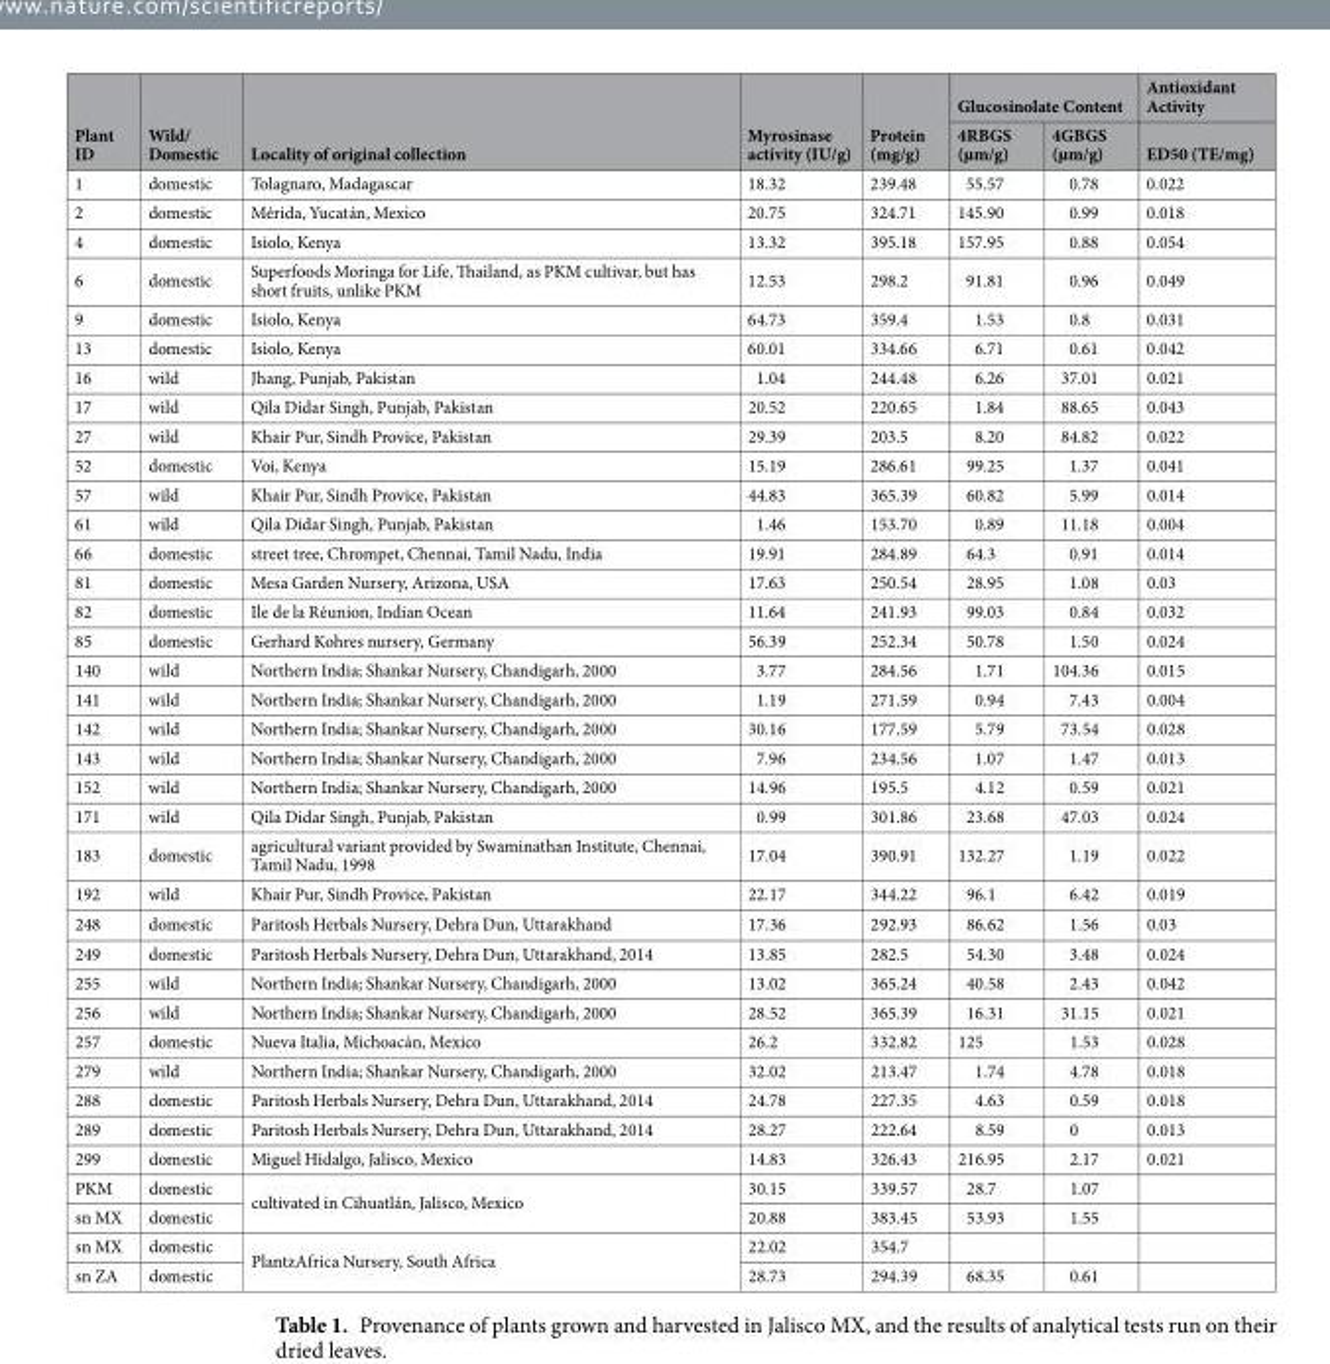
<table><thead><tr><td rowspan="2">Plant ID</td><td rowspan="2">Wild/ Domestic</td><td rowspan="2">Locality of original collection</td><td rowspan="2">Myrosinase activity (IU/g)</td><td rowspan="2">Protein (mg/g)</td><td colspan="2">Glucosinolate Content</td><td rowspan="2">Antioxidant Activity ED50 (TE/mg)</td></tr><tr><td>4RBGS (µm/g)</td><td>4GBGS (µm/g)</td></tr></thead><tbody><tr><td>1</td><td>domestic</td><td>Tolagnaro, Madagascar</td><td>18.32</td><td>239.48</td><td>55.57</td><td>0.78</td><td>0.022</td></tr><tr><td>2</td><td>domestic</td><td>Mérida, Yucatán, Mexico</td><td>20.75</td><td>324.71</td><td>145.90</td><td>0.99</td><td>0.018</td></tr><tr><td>4</td><td>domestic</td><td>Isiolo, Kenya</td><td>13.32</td><td>395.18</td><td>157.95</td><td>0.88</td><td>0.054</td></tr><tr><td>6</td><td>domestic</td><td>Superfoods Moringa for Life, Thailand, as PKM cultivar, but has short fruits, unlike PKM</td><td>12.53</td><td>298.2</td><td>91.81</td><td>0.96</td><td>0.049</td></tr><tr><td>9</td><td>domestic</td><td>Isiolo, Kenya</td><td>64.73</td><td>359.4</td><td>1.53</td><td>0.8</td><td>0.031</td></tr><tr><td>13</td><td>domestic</td><td>Isiolo, Kenya</td><td>60.01</td><td>334.66</td><td>6.71</td><td>0.61</td><td>0.042</td></tr><tr><td>16</td><td>wild</td><td>Jhang, Punjab, Pakistan</td><td>1.04</td><td>244.48</td><td>6.26</td><td>37.01</td><td>0.021</td></tr><tr><td>17</td><td>wild</td><td>Qila Didar Singh, Punjab, Pakistan</td><td>20.52</td><td>220.65</td><td>1.84</td><td>88.65</td><td>0.043</td></tr><tr><td>27</td><td>wild</td><td>Khair Pur, Sindh Provice, Pakistan</td><td>29.39</td><td>203.5</td><td>8.20</td><td>84.82</td><td>0.022</td></tr><tr><td>52</td><td>domestic</td><td>Voi, Kenya</td><td>15.19</td><td>286.61</td><td>99.25</td><td>1.37</td><td>0.041</td></tr><tr><td>57</td><td>wild</td><td>Khair Pur, Sindh Provice, Pakistan</td><td>44.83</td><td>365.39</td><td>60.82</td><td>5.99</td><td>0.014</td></tr><tr><td>61</td><td>wild</td><td>Qila Didar Singh, Punjab, Pakistan</td><td>1.46</td><td>153.70</td><td>0.89</td><td>11.18</td><td>0.004</td></tr><tr><td>66</td><td>domestic</td><td>street tree, Chrompet, Chennai, Tamil Nadu, India</td><td>19.91</td><td>284.89</td><td>64.3</td><td>0.91</td><td>0.014</td></tr><tr><td>81</td><td>domestic</td><td>Mesa Garden Nursery, Arizona, USA</td><td>17.63</td><td>250.54</td><td>28.95</td><td>1.08</td><td>0.03</td></tr><tr><td>82</td><td>domestic</td><td>Ile de la Réunion, Indian Ocean</td><td>11.64</td><td>241.93</td><td>99.03</td><td>0.84</td><td>0.032</td></tr><tr><td>85</td><td>domestic</td><td>Gerhard Kohres nursery, Germany</td><td>56.39</td><td>252.34</td><td>50.78</td><td>1.50</td><td>0.024</td></tr><tr><td>140</td><td>wild</td><td>Northern India; Shankar Nursery, Chandigarh, 2000</td><td>3.77</td><td>284.56</td><td>1.71</td><td>104.36</td><td>0.015</td></tr><tr><td>141</td><td>wild</td><td>Northern India; Shankar Nursery, Chandigarh, 2000</td><td>1.19</td><td>271.59</td><td>0.94</td><td>7.43</td><td>0.004</td></tr><tr><td>142</td><td>wild</td><td>Northern India; Shankar Nursery, Chandigarh, 2000</td><td>30.16</td><td>177.59</td><td>5.79</td><td>73.54</td><td>0.028</td></tr><tr><td>143</td><td>wild</td><td>Northern India; Shankar Nursery, Chandigarh, 2000</td><td>7.96</td><td>234.56</td><td>1.07</td><td>1.47</td><td>0.013</td></tr><tr><td>152</td><td>wild</td><td>Northern India; Shankar Nursery, Chandigarh, 2000</td><td>14.96</td><td>195.5</td><td>4.12</td><td>0.59</td><td>0.021</td></tr><tr><td>171</td><td>wild</td><td>Qila Didar Singh, Punjab, Pakistan</td><td>0.99</td><td>301.86</td><td>23.68</td><td>47.03</td><td>0.024</td></tr><tr><td>183</td><td>domestic</td><td>agricultural variant provided by Swaminathan Institute, Chennai, Tamil Nadu, 1998</td><td>17.04</td><td>390.91</td><td>132.27</td><td>1.19</td><td>0.022</td></tr><tr><td>192</td><td>wild</td><td>Khair Pur, Sindh Provice, Pakistan</td><td>22.17</td><td>344.22</td><td>96.1</td><td>6.42</td><td>0.019</td></tr><tr><td>248</td><td>domestic</td><td>Paritosh Herbals Nursery, Dehra Dun, Uttarakhand</td><td>17.36</td><td>292.93</td><td>86.62</td><td>1.56</td><td>0.03</td></tr><tr><td>249</td><td>domestic</td><td>Paritosh Herbals Nursery, Dehra Dun, Uttarakhand, 2014</td><td>13.85</td><td>282.5</td><td>54.30</td><td>3.48</td><td>0.024</td></tr><tr><td>255</td><td>wild</td><td>Northern India; Shankar Nursery, Chandigarh, 2000</td><td>13.02</td><td>365.24</td><td>40.58</td><td>2.43</td><td>0.042</td></tr><tr><td>256</td><td>wild</td><td>Northern India; Shankar Nursery, Chandigarh, 2000</td><td>28.52</td><td>365.39</td><td>16.31</td><td>31.15</td><td>0.021</td></tr><tr><td>257</td><td>domestic</td><td>Nueva Italia, Michoacán, Mexico</td><td>26.2</td><td>332.82</td><td>125</td><td>1.53</td><td>0.028</td></tr><tr><td>279</td><td>wild</td><td>Northern India; Shankar Nursery, Chandigarh, 2000</td><td>32.02</td><td>213.47</td><td>1.74</td><td>4.78</td><td>0.018</td></tr><tr><td>288</td><td>domestic</td><td>Paritosh Herbals Nursery, Dehra Dun, Uttarakhand, 2014</td><td>24.78</td><td>227.35</td><td>4.63</td><td>0.59</td><td>0.018</td></tr><tr><td>289</td><td>domestic</td><td>Paritosh Herbals Nursery, Dehra Dun, Uttarakhand, 2014</td><td>28.27</td><td>222.64</td><td>8.59</td><td>0</td><td>0.013</td></tr><tr><td>299</td><td>domestic</td><td>Miguel Hidalgo, Jalisco, Mexico</td><td>14.83</td><td>326.43</td><td>216.95</td><td>2.17</td><td>0.021</td></tr><tr><td>PKM</td><td>domestic</td><td rowspan="2">cultivated in Cihuatlán, Jalisco, Mexico</td><td>30.15</td><td>339.57</td><td>28.7</td><td>1.07</td><td></td></tr><tr><td>sn MX</td><td>domestic</td><td>20.88</td><td>383.45</td><td>53.93</td><td>1.55</td><td></td></tr><tr><td>sn MX</td><td>domestic</td><td rowspan="2">PlantzAfrica Nursery, South Africa</td><td>22.02</td><td>354.7</td><td></td><td></td><td></td></tr><tr><td>sn ZA</td><td>domestic</td><td>28.73</td><td>294.39</td><td>68.35</td><td>0.61</td><td></td></tr></tbody></table>